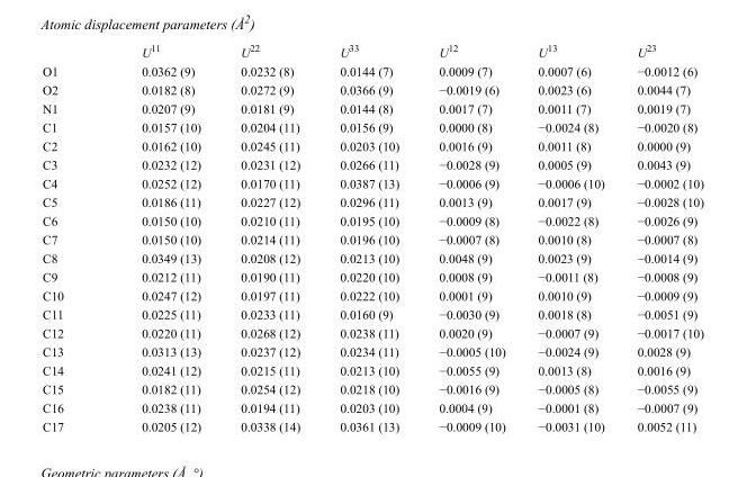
<table><thead><tr><td></td><td>U<sup>11</sup></td><td>U<sup>22</sup></td><td>U<sup>33</sup></td><td>U<sup>12</sup></td><td>U<sup>13</sup></td><td>U<sup>23</sup></td></tr></thead><tbody><tr><td>O1</td><td>0.0362 (9)</td><td>0.0232 (8)</td><td>0.0144 (7)</td><td>0.0009 (7)</td><td>0.0007 (6)</td><td>−0.0012 (6)</td></tr><tr><td>O2</td><td>0.0182 (8)</td><td>0.0272 (9)</td><td>0.0366 (9)</td><td>−0.0019 (6)</td><td>0.0023 (6)</td><td>0.0044 (7)</td></tr><tr><td>N1</td><td>0.0207 (9)</td><td>0.0181 (9)</td><td>0.0144 (8)</td><td>0.0017 (7)</td><td>0.0011 (7)</td><td>0.0019 (7)</td></tr><tr><td>C1</td><td>0.0157 (10)</td><td>0.0204 (11)</td><td>0.0156 (9)</td><td>0.0000 (8)</td><td>−0.0024 (8)</td><td>−0.0020 (8)</td></tr><tr><td>C2</td><td>0.0162 (10)</td><td>0.0245 (11)</td><td>0.0203 (10)</td><td>0.0016 (9)</td><td>0.0011 (8)</td><td>0.0000 (9)</td></tr><tr><td>C3</td><td>0.0232 (12)</td><td>0.0231 (12)</td><td>0.0266 (11)</td><td>−0.0028 (9)</td><td>0.0005 (9)</td><td>0.0043 (9)</td></tr><tr><td>C4</td><td>0.0252 (12)</td><td>0.0170 (11)</td><td>0.0387 (13)</td><td>−0.0006 (9)</td><td>−0.0006 (10)</td><td>−0.0002 (10)</td></tr><tr><td>C5</td><td>0.0186 (11)</td><td>0.0227 (12)</td><td>0.0296 (11)</td><td>0.0013 (9)</td><td>0.0017 (9)</td><td>−0.0028 (10)</td></tr><tr><td>C6</td><td>0.0150 (10)</td><td>0.0210 (11)</td><td>0.0195 (10)</td><td>−0.0009 (8)</td><td>−0.0022 (8)</td><td>−0.0026 (9)</td></tr><tr><td>C7</td><td>0.0150 (10)</td><td>0.0214 (11)</td><td>0.0196 (10)</td><td>−0.0007 (8)</td><td>0.0010 (8)</td><td>−0.0007 (8)</td></tr><tr><td>C8</td><td>0.0349 (13)</td><td>0.0208 (12)</td><td>0.0213 (10)</td><td>0.0048 (9)</td><td>0.0023 (9)</td><td>−0.0014 (9)</td></tr><tr><td>C9</td><td>0.0212 (11)</td><td>0.0190 (11)</td><td>0.0220 (10)</td><td>0.0008 (9)</td><td>−0.0011 (8)</td><td>−0.0008 (9)</td></tr><tr><td>C10</td><td>0.0247 (12)</td><td>0.0197 (11)</td><td>0.0222 (10)</td><td>0.0001 (9)</td><td>0.0010 (9)</td><td>−0.0009 (9)</td></tr><tr><td>C11</td><td>0.0225 (11)</td><td>0.0233 (11)</td><td>0.0160 (9)</td><td>−0.0030 (9)</td><td>0.0018 (8)</td><td>−0.0051 (9)</td></tr><tr><td>C12</td><td>0.0220 (11)</td><td>0.0268 (12)</td><td>0.0238 (11)</td><td>0.0020 (9)</td><td>−0.0007 (9)</td><td>−0.0017 (10)</td></tr><tr><td>C13</td><td>0.0313 (13)</td><td>0.0237 (12)</td><td>0.0234 (11)</td><td>−0.0005 (10)</td><td>−0.0024 (9)</td><td>0.0028 (9)</td></tr><tr><td>C14</td><td>0.0241 (12)</td><td>0.0215 (11)</td><td>0.0213 (10)</td><td>−0.0055 (9)</td><td>0.0013 (8)</td><td>0.0016 (9)</td></tr><tr><td>C15</td><td>0.0182 (11)</td><td>0.0254 (12)</td><td>0.0218 (10)</td><td>−0.0016 (9)</td><td>−0.0005 (8)</td><td>−0.0055 (9)</td></tr><tr><td>C16</td><td>0.0238 (11)</td><td>0.0194 (11)</td><td>0.0203 (10)</td><td>0.0004 (9)</td><td>−0.0001 (8)</td><td>−0.0007 (9)</td></tr><tr><td>C17</td><td>0.0205 (12)</td><td>0.0338 (14)</td><td>0.0361 (13)</td><td>−0.0009 (10)</td><td>−0.0031 (10)</td><td>0.0052 (11)</td></tr></tbody></table>